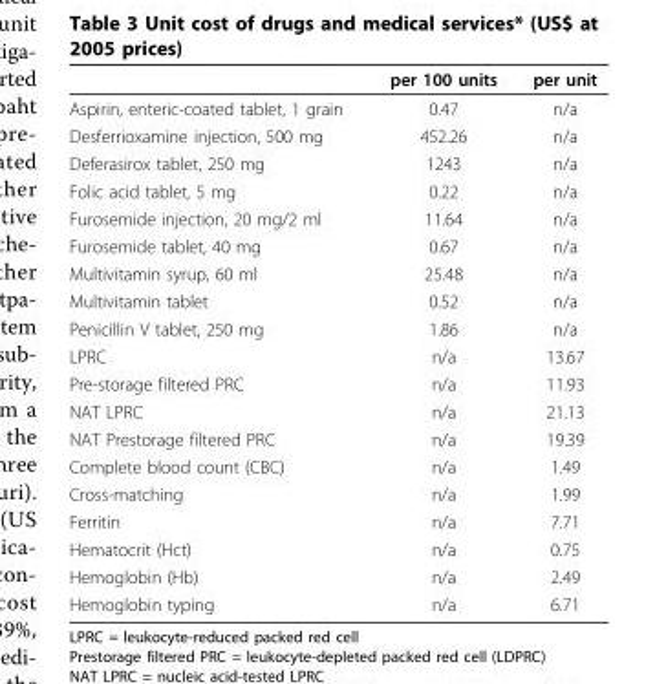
<table><thead><tr><td></td><td>per 100 units</td><td>per unit</td></tr></thead><tbody><tr><td>Aspirin, enteric-coated tablet, 1 grain</td><td>0.47</td><td>n/a</td></tr><tr><td>Desferrioxamine injection, 500 mg</td><td>452.26</td><td>n/a</td></tr><tr><td>Deferasirox tablet, 250 mg</td><td>1243</td><td>n/a</td></tr><tr><td>Folic acid tablet, 5 mg</td><td>0.22</td><td>n/a</td></tr><tr><td>Furosemide injection, 20 mg/2 ml</td><td>11.64</td><td>n/a</td></tr><tr><td>Furosemide tablet, 40 mg</td><td>0.67</td><td>n/a</td></tr><tr><td>Multivitamin syrup, 60 ml</td><td>25.48</td><td>n/a</td></tr><tr><td>Multivitamin tablet</td><td>0.52</td><td>n/a</td></tr><tr><td>Penicillin V tablet, 250 mg</td><td>1.86</td><td>n/a</td></tr><tr><td>LPRC</td><td>n/a</td><td>13.67</td></tr><tr><td>Pre-storage filtered PRC</td><td>n/a</td><td>11.93</td></tr><tr><td>NAT LPRC</td><td>n/a</td><td>21.13</td></tr><tr><td>NAT Prestorage filtered PRC</td><td>n/a</td><td>19.39</td></tr><tr><td>Complete blood count (CBC)</td><td>n/a</td><td>1.49</td></tr><tr><td>Cross-matching</td><td>n/a</td><td>1.99</td></tr><tr><td>Ferritin</td><td>n/a</td><td>7.71</td></tr><tr><td>Hematocrit (Hct)</td><td>n/a</td><td>0.75</td></tr><tr><td>Hemoglobin (Hb)</td><td>n/a</td><td>2.49</td></tr><tr><td>Hemoglobin typing</td><td>n/a</td><td>6.71</td></tr></tbody></table>